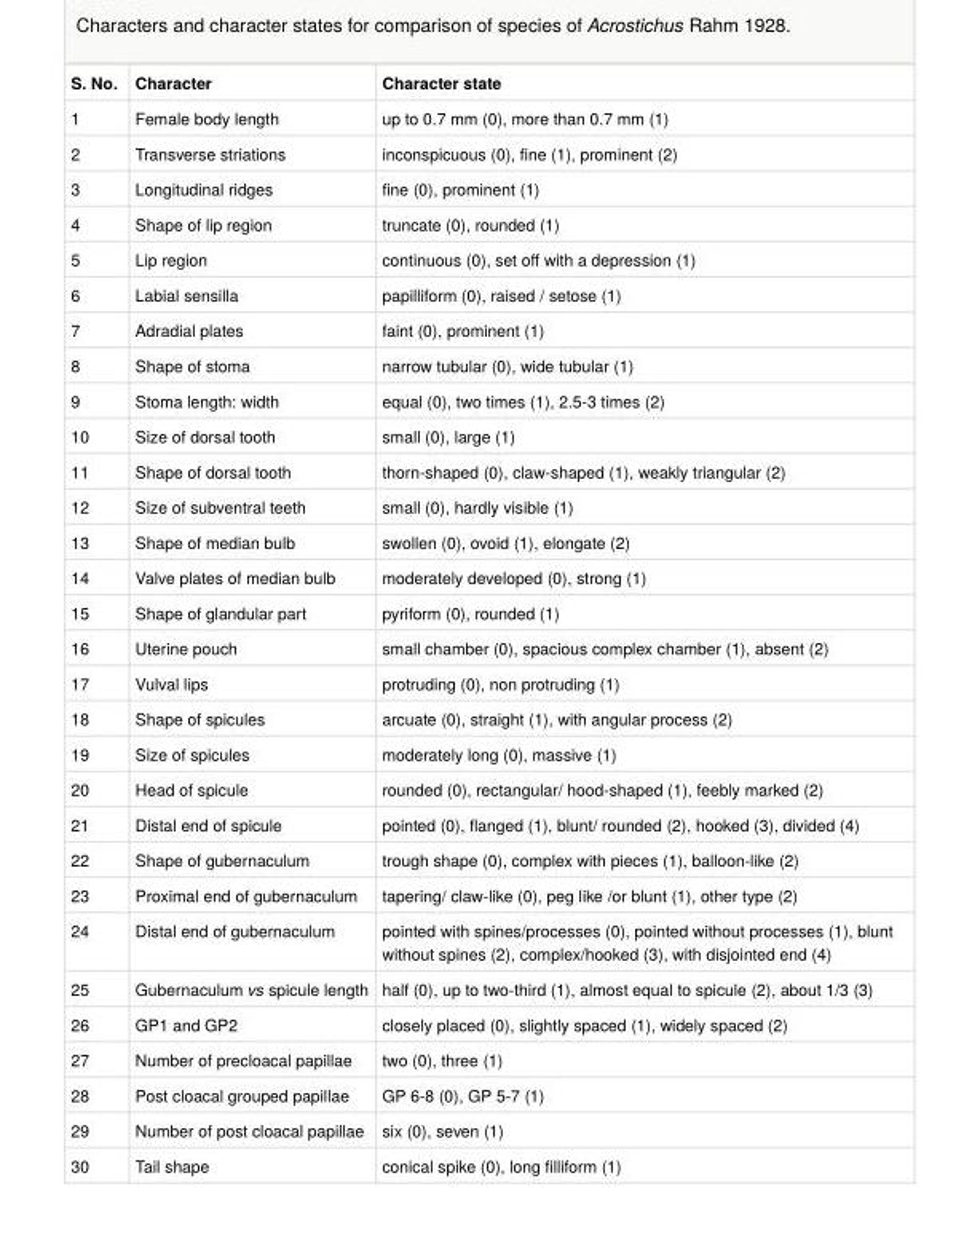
<table><tbody><tr><td>S. No.</td><td>Character</td><td>Character state</td></tr><tr><td>1</td><td>Female body length</td><td>up to 0.7 mm (0), more than 0.7 mm (1)</td></tr><tr><td>2</td><td>Transverse striations</td><td>inconspicuous (0), fine (1), prominent (2)</td></tr><tr><td>3</td><td>Longitudinal ridges</td><td>fine (0), prominent (1)</td></tr><tr><td>4</td><td>Shape of lip region</td><td>truncate (0), rounded (1)</td></tr><tr><td>5</td><td>Lip region</td><td>continuous (0), set off with a depression (1)</td></tr><tr><td>6</td><td>Labial sensilla</td><td>papilliform (0), raised / setose (1)</td></tr><tr><td>7</td><td>Adradial plates</td><td>faint (0), prominent (1)</td></tr><tr><td>8</td><td>Shape of stoma</td><td>narrow tubular (0), wide tubular (1)</td></tr><tr><td>9</td><td>Stoma length: width</td><td>equal (0), two times (1), 2.5-3 times (2)</td></tr><tr><td>10</td><td>Size of dorsal tooth</td><td>small (0), large (1)</td></tr><tr><td>11</td><td>Shape of dorsal tooth</td><td>thorn-shaped (0), claw-shaped (1), weakly triangular (2)</td></tr><tr><td>12</td><td>Size of subventral teeth</td><td>small (0), hardly visible (1)</td></tr><tr><td>13</td><td>Shape of median bulb</td><td>swollen (0), ovoid (1), elongate (2)</td></tr><tr><td>14</td><td>Valve plates of median bulb</td><td>moderately developed (0), strong (1)</td></tr><tr><td>15</td><td>Shape of glandular part</td><td>pyriform (0), rounded (1)</td></tr><tr><td>16</td><td>Uterine pouch</td><td>small chamber (0), spacious complex chamber (1), absent (2)</td></tr><tr><td>17</td><td>Vulval lips</td><td>protruding (0), non protruding (1)</td></tr><tr><td>18</td><td>Shape of spicules</td><td>arcuate (0), straight (1), with angular process (2)</td></tr><tr><td>19</td><td>Size of spicules</td><td>moderately long (0), massive (1)</td></tr><tr><td>20</td><td>Head of spicule</td><td>rounded (0), rectangular/ hood-shaped (1), feebly marked (2)</td></tr><tr><td>21</td><td>Distal end of spicule</td><td>pointed (0), flanged (1), blunt/ rounded (2), hooked (3), divided (4)</td></tr><tr><td>22</td><td>Shape of gubernaculum</td><td>trough shape (0), complex with pieces (1), balloon-like (2)</td></tr><tr><td>23</td><td>Proximal end of gubernaculum</td><td>tapering/ claw-like (0), peg like /or blunt (1), other type (2)</td></tr><tr><td>24</td><td>Distal end of gubernaculum</td><td>pointed with spines/processes (0), pointed without processes (1), blunt without spines (2), complex/hooked (3), with disjointed end (4)</td></tr><tr><td>25</td><td>Gubernaculum vs spicule length</td><td>half (0), up to two-third (1), almost equal to spicule (2), about 1/3 (3)</td></tr><tr><td>26</td><td>GP1 and GP2</td><td>closely placed (0), slightly spaced (1), widely spaced (2)</td></tr><tr><td>27</td><td>Number of precloacal papillae</td><td>two (0), three (1)</td></tr><tr><td>28</td><td>Post cloacal grouped papillae</td><td>GP 6-8 (0), GP 5-7 (1)</td></tr><tr><td>29</td><td>Number of post cloacal papillae</td><td>six (0), seven (1)</td></tr><tr><td>30</td><td>Tail shape</td><td>conical spike (0), long filliform (1)</td></tr></tbody></table>